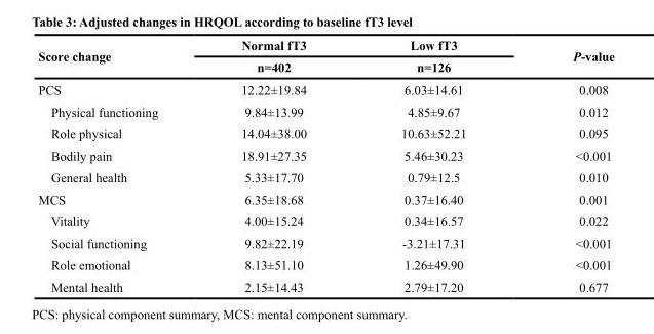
<table><thead><tr><td rowspan="2">Score change</td><td rowspan="2">Normal fT3 n=402</td><td rowspan="2">Low fT3 n=126</td><td rowspan="2">P-value</td></tr><tr></tr></thead><tbody><tr><td>PCS</td><td>12.22±19.84</td><td>6.03±14.61</td><td>0.008</td></tr><tr><td>Physical functioning</td><td>9.84±13.99</td><td>4.85±9.67</td><td>0.012</td></tr><tr><td>Role physical</td><td>14.04±38.00</td><td>10.63±52.21</td><td>0.095</td></tr><tr><td>Bodily pain</td><td>18.91±27.35</td><td>5.46±30.23</td><td>&lt;0.001</td></tr><tr><td>General health</td><td>5.33±17.70</td><td>0.79±12.5</td><td>0.010</td></tr><tr><td>MCS</td><td>6.35±18.68</td><td>0.37±16.40</td><td>0.001</td></tr><tr><td>Vitality</td><td>4.00±15.24</td><td>0.34±16.57</td><td>0.022</td></tr><tr><td>Social functioning</td><td>9.82±22.19</td><td>-3.21±17.31</td><td>&lt;0.001</td></tr><tr><td>Role emotional</td><td>8.13±51.10</td><td>1.26±49.90</td><td>&lt;0.001</td></tr><tr><td>Mental health</td><td>2.15±14.43</td><td>2.79±17.20</td><td>0.677</td></tr></tbody></table>